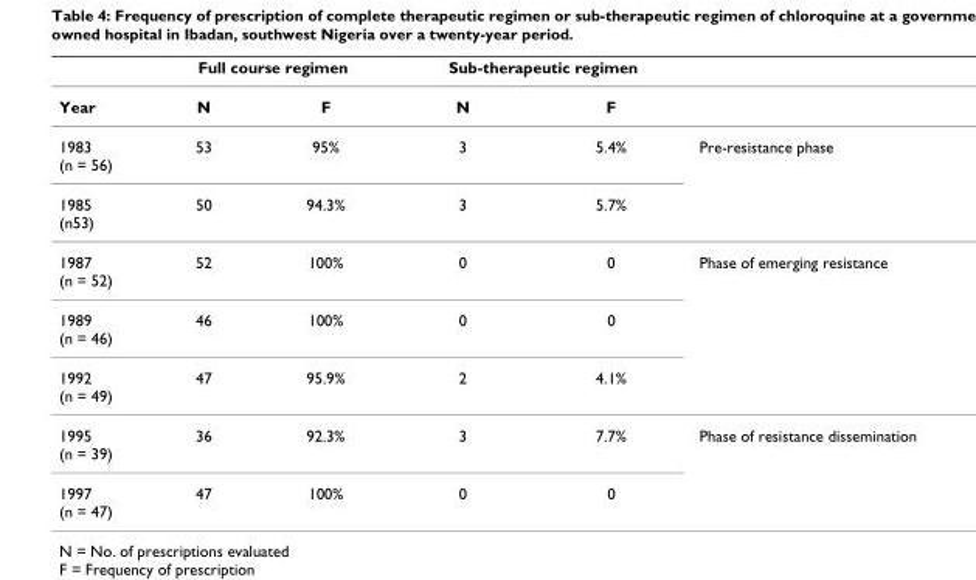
<table><thead><tr><td rowspan="2">Year</td><td colspan="2">Full course regimen</td><td colspan="2">Sub-therapeutic regimen</td><td rowspan="2"></td></tr><tr><td>N</td><td>F</td><td>N</td><td>F</td></tr></thead><tbody><tr><td>1983 (n = 56)</td><td>53</td><td>95%</td><td>3</td><td>5.4%</td><td>Pre-resistance phase</td></tr><tr><td>1985 (n53)</td><td>50</td><td>94.3%</td><td>3</td><td>5.7%</td><td></td></tr><tr><td>1987 (n = 52)</td><td>52</td><td>100%</td><td>0</td><td>0</td><td>Phase of emerging resistance</td></tr><tr><td>1989 (n = 46)</td><td>46</td><td>100%</td><td>0</td><td>0</td><td></td></tr><tr><td>1992 (n = 49)</td><td>47</td><td>95.9%</td><td>2</td><td>4.1%</td><td></td></tr><tr><td>1995 (n = 39)</td><td>36</td><td>92.3%</td><td>3</td><td>7.7%</td><td>Phase of resistance dissemination</td></tr><tr><td>1997 (n = 47)</td><td>47</td><td>100%</td><td>0</td><td>0</td><td></td></tr></tbody></table>